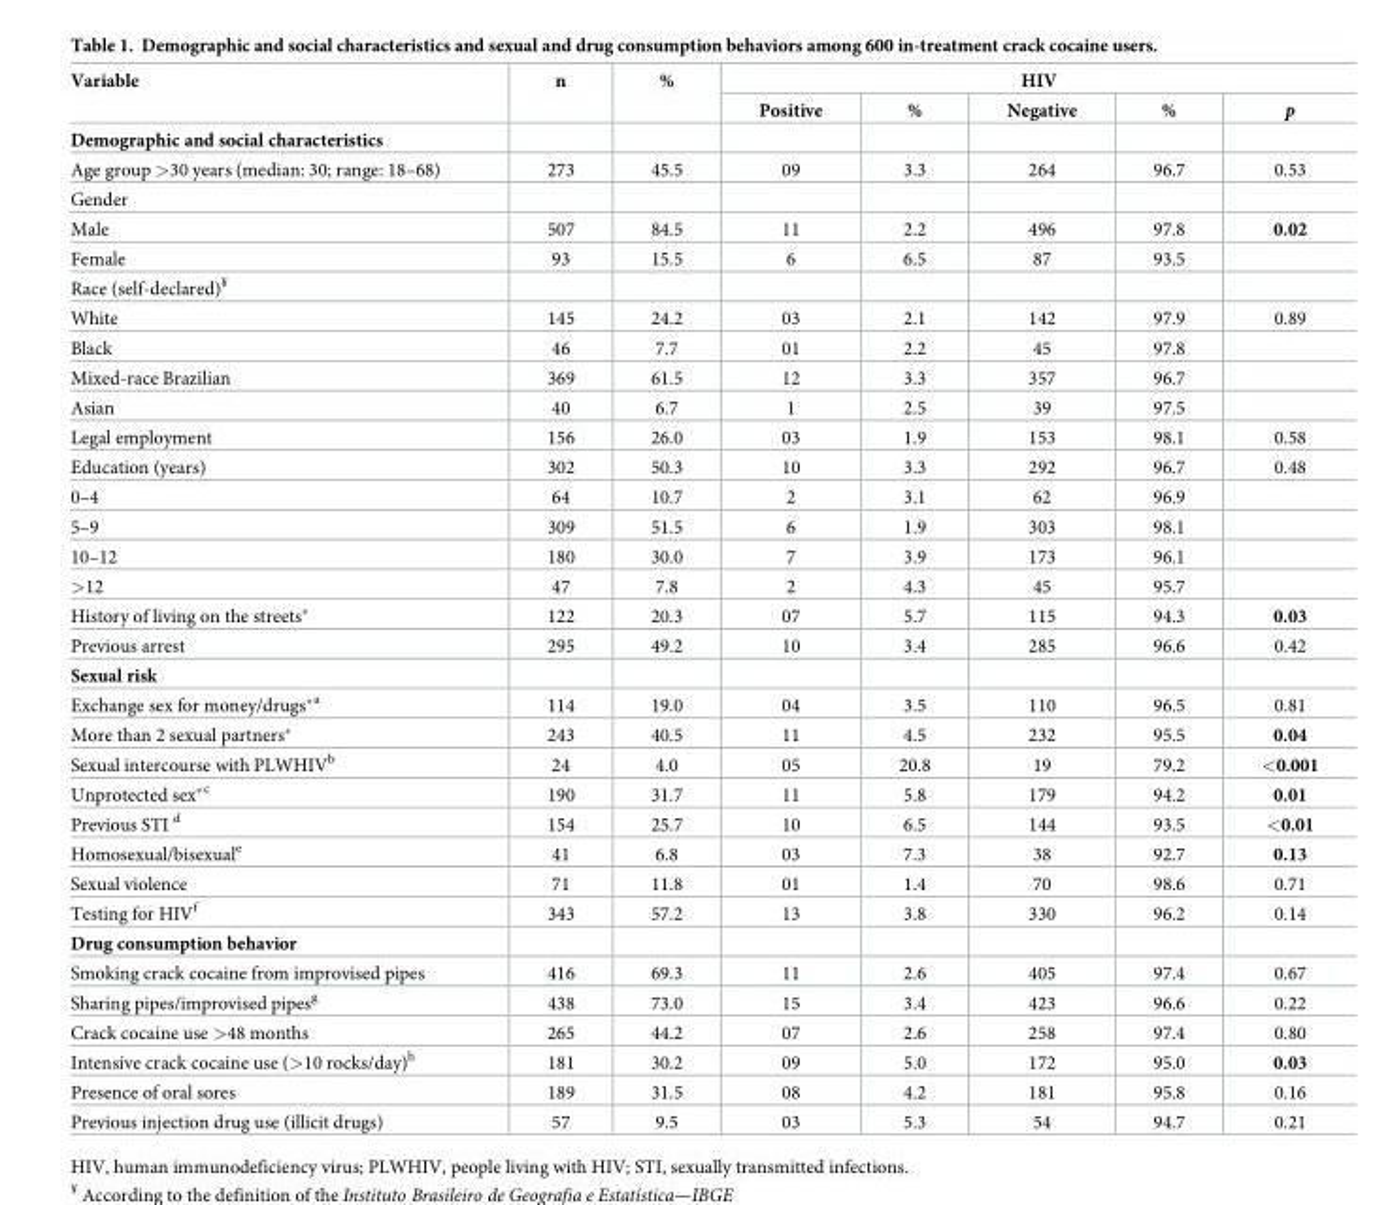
<table><thead><tr><td rowspan="2">Variable</td><td rowspan="2">n</td><td rowspan="2">%</td><td colspan="5">HIV</td></tr><tr><td>Positive</td><td>%</td><td>Negative</td><td>%</td><td>p</td></tr></thead><tbody><tr><td colspan="8">Demographic and social characteristics</td></tr><tr><td>Age group &gt;30 years (median: 30; range: 18–68)</td><td>273</td><td>45.5</td><td>09</td><td>3.3</td><td>264</td><td>96.7</td><td>0.53</td></tr><tr><td colspan="8">Gender</td></tr><tr><td>Male</td><td>507</td><td>84.5</td><td>11</td><td>2.2</td><td>496</td><td>97.8</td><td>0.02</td></tr><tr><td>Female</td><td>93</td><td>15.5</td><td>6</td><td>6.5</td><td>87</td><td>93.5</td><td></td></tr><tr><td colspan="8">Race (self-declared)<sup>¥</sup></td></tr><tr><td>White</td><td>145</td><td>24.2</td><td>03</td><td>2.1</td><td>142</td><td>97.9</td><td>0.89</td></tr><tr><td>Black</td><td>46</td><td>7.7</td><td>01</td><td>2.2</td><td>45</td><td>97.8</td><td></td></tr><tr><td>Mixed-race Brazilian</td><td>369</td><td>61.5</td><td>12</td><td>3.3</td><td>357</td><td>96.7</td><td></td></tr><tr><td>Asian</td><td>40</td><td>6.7</td><td>1</td><td>2.5</td><td>39</td><td>97.5</td><td></td></tr><tr><td>Legal employment</td><td>156</td><td>26.0</td><td>03</td><td>1.9</td><td>153</td><td>98.1</td><td>0.58</td></tr><tr><td>Education (years)</td><td>302</td><td>50.3</td><td>10</td><td>3.3</td><td>292</td><td>96.7</td><td>0.48</td></tr><tr><td>0–4</td><td>64</td><td>10.7</td><td>2</td><td>3.1</td><td>62</td><td>96.9</td><td></td></tr><tr><td>5–9</td><td>309</td><td>51.5</td><td>6</td><td>1.9</td><td>303</td><td>98.1</td><td></td></tr><tr><td>10–12</td><td>180</td><td>30.0</td><td>7</td><td>3.9</td><td>173</td><td>96.1</td><td></td></tr><tr><td>&gt;12</td><td>47</td><td>7.8</td><td>2</td><td>4.3</td><td>45</td><td>95.7</td><td></td></tr><tr><td>History of living on the streets*</td><td>122</td><td>20.3</td><td>07</td><td>5.7</td><td>115</td><td>94.3</td><td>0.03</td></tr><tr><td>Previous arrest</td><td>295</td><td>49.2</td><td>10</td><td>3.4</td><td>285</td><td>96.6</td><td>0.42</td></tr><tr><td colspan="8">Sexual risk</td></tr><tr><td>Exchange sex for money/drugs*<sup>a</sup></td><td>114</td><td>19.0</td><td>04</td><td>3.5</td><td>110</td><td>96.5</td><td>0.81</td></tr><tr><td>More than 2 sexual partners*</td><td>243</td><td>40.5</td><td>11</td><td>4.5</td><td>232</td><td>95.5</td><td>0.04</td></tr><tr><td>Sexual intercourse with PLWHIV<sup>b</sup></td><td>24</td><td>4.0</td><td>05</td><td>20.8</td><td>19</td><td>79.2</td><td>&lt;0.001</td></tr><tr><td>Unprotected sex*<sup>c</sup></td><td>190</td><td>31.7</td><td>11</td><td>5.8</td><td>179</td><td>94.2</td><td>0.01</td></tr><tr><td>Previous STI <sup>d</sup></td><td>154</td><td>25.7</td><td>10</td><td>6.5</td><td>144</td><td>93.5</td><td>&lt;0.01</td></tr><tr><td>Homosexual/bisexual<sup>e</sup></td><td>41</td><td>6.8</td><td>03</td><td>7.3</td><td>38</td><td>92.7</td><td>0.13</td></tr><tr><td>Sexual violence</td><td>71</td><td>11.8</td><td>01</td><td>1.4</td><td>70</td><td>98.6</td><td>0.71</td></tr><tr><td>Testing for HIV<sup>f</sup></td><td>343</td><td>57.2</td><td>13</td><td>3.8</td><td>330</td><td>96.2</td><td>0.14</td></tr><tr><td colspan="8">Drug consumption behavior</td></tr><tr><td>Smoking crack cocaine from improvised pipes</td><td>416</td><td>69.3</td><td>11</td><td>2.6</td><td>405</td><td>97.4</td><td>0.67</td></tr><tr><td>Sharing pipes/improvised pipes<sup>g</sup></td><td>438</td><td>73.0</td><td>15</td><td>3.4</td><td>423</td><td>96.6</td><td>0.22</td></tr><tr><td>Crack cocaine use &gt;48 months</td><td>265</td><td>44.2</td><td>07</td><td>2.6</td><td>258</td><td>97.4</td><td>0.80</td></tr><tr><td>Intensive crack cocaine use (&gt;10 rocks/day)<sup>h</sup></td><td>181</td><td>30.2</td><td>09</td><td>5.0</td><td>172</td><td>95.0</td><td>0.03</td></tr><tr><td>Presence of oral sores</td><td>189</td><td>31.5</td><td>08</td><td>4.2</td><td>181</td><td>95.8</td><td>0.16</td></tr><tr><td>Previous injection drug use (illicit drugs)</td><td>57</td><td>9.5</td><td>03</td><td>5.3</td><td>54</td><td>94.7</td><td>0.21</td></tr></tbody></table>